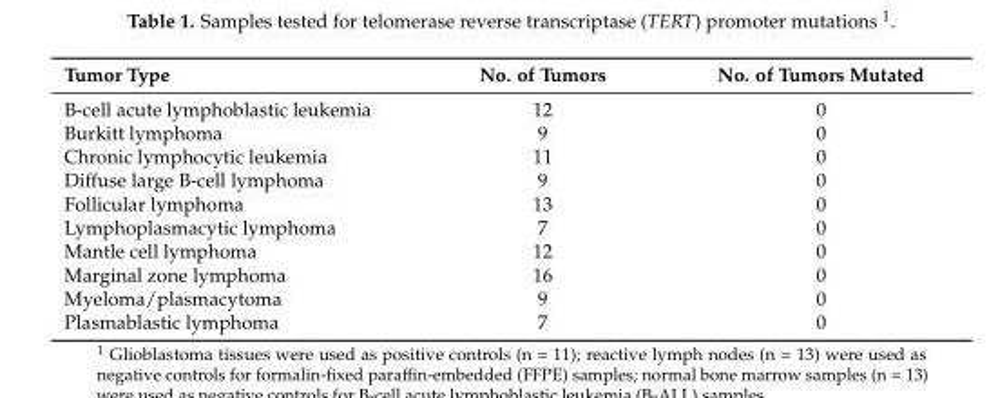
<table><thead><tr><td>Tumor Type</td><td>No. of Tumors</td><td>No. of Tumors Mutated</td></tr></thead><tbody><tr><td>B-cell acute lymphoblastic leukemia</td><td>12</td><td>0</td></tr><tr><td>Burkitt lymphoma</td><td>9</td><td>0</td></tr><tr><td>Chronic lymphocytic leukemia</td><td>11</td><td>0</td></tr><tr><td>Diffuse large B-cell lymphoma</td><td>9</td><td>0</td></tr><tr><td>Follicular lymphoma</td><td>13</td><td>0</td></tr><tr><td>Lymphoplasmacytic lymphoma</td><td>7</td><td>0</td></tr><tr><td>Mantle cell lymphoma</td><td>12</td><td>0</td></tr><tr><td>Marginal zone lymphoma</td><td>16</td><td>0</td></tr><tr><td>Myeloma/plasmacytoma</td><td>9</td><td>0</td></tr><tr><td>Plasmablastic lymphoma</td><td>7</td><td>0</td></tr></tbody></table>